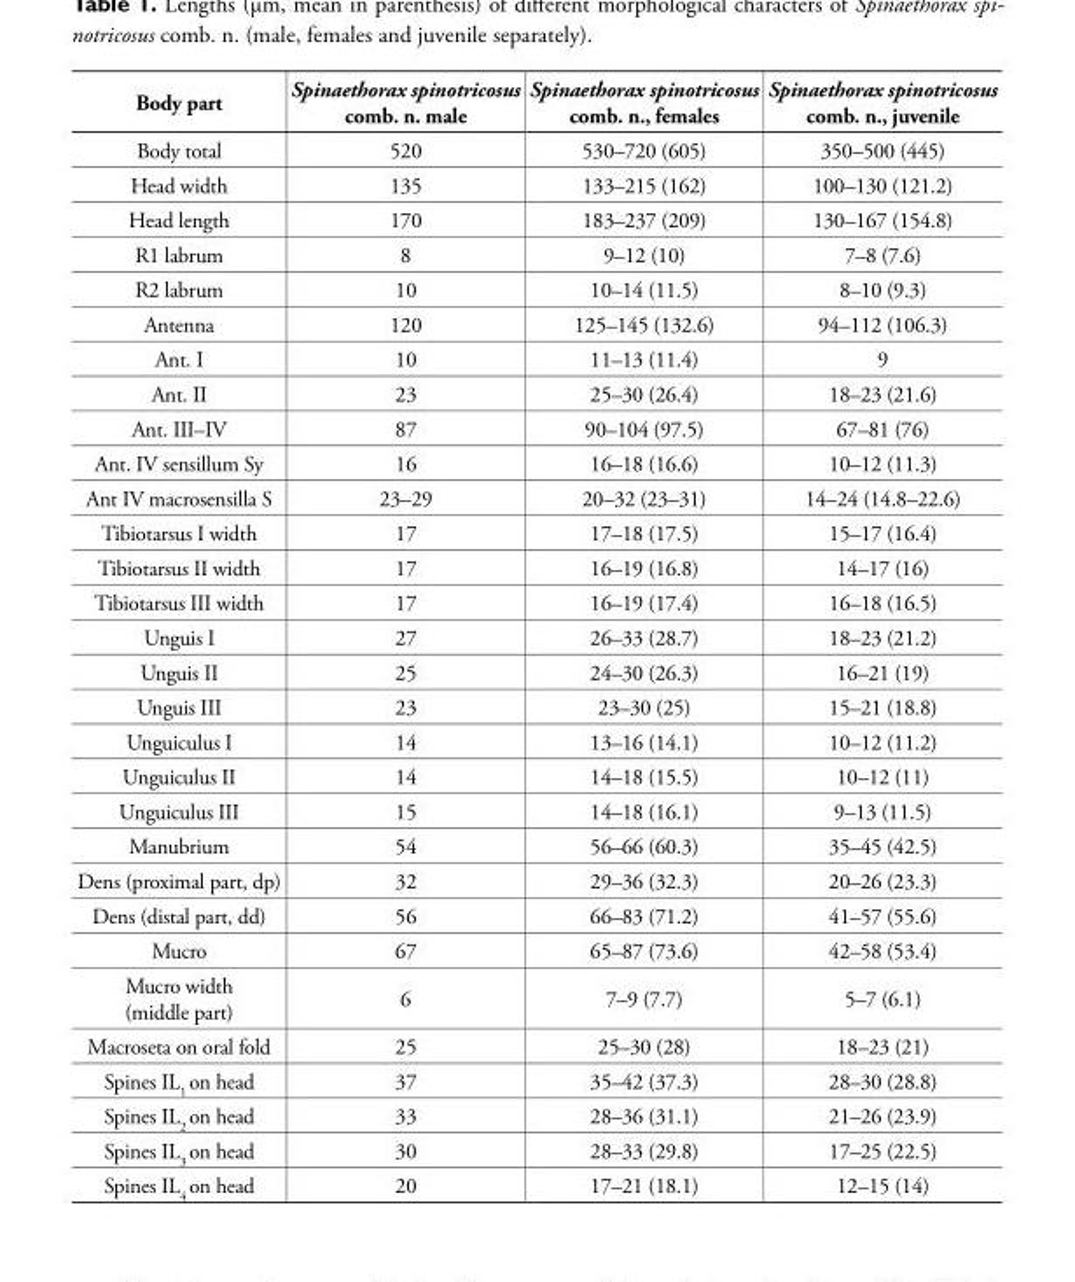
<table><thead><tr><td>Body part</td><td>Spinaethorax spinotricosus comb. n. male</td><td>Spinaethorax spinotricosus comb. n., females</td><td>Spinaethorax spinotricosus comb. n., juvenile</td></tr></thead><tbody><tr><td>Body total</td><td>520</td><td>530–720 (605)</td><td>350–500 (445)</td></tr><tr><td>Head width</td><td>135</td><td>133–215 (162)</td><td>100–130 (121.2)</td></tr><tr><td>Head length</td><td>170</td><td>183–237 (209)</td><td>130–167 (154.8)</td></tr><tr><td>R1 labrum</td><td>8</td><td>9–12 (10)</td><td>7–8 (7.6)</td></tr><tr><td>R2 labrum</td><td>10</td><td>10–14 (11.5)</td><td>8–10 (9.3)</td></tr><tr><td>Antenna</td><td>120</td><td>125–145 (132.6)</td><td>94–112 (106.3)</td></tr><tr><td>Ant. I</td><td>10</td><td>11–13 (11.4)</td><td>9</td></tr><tr><td>Ant. II</td><td>23</td><td>25–30 (26.4)</td><td>18–23 (21.6)</td></tr><tr><td>Ant. III–IV</td><td>87</td><td>90–104 (97.5)</td><td>67–81 (76)</td></tr><tr><td>Ant. IV sensillum Sy</td><td>16</td><td>16–18 (16.6)</td><td>10–12 (11.3)</td></tr><tr><td>Ant IV macrosensilla S</td><td>23–29</td><td>20–32 (23–31)</td><td>14–24 (14.8–22.6)</td></tr><tr><td>Tibiotarsus I width</td><td>17</td><td>17–18 (17.5)</td><td>15–17 (16.4)</td></tr><tr><td>Tibiotarsus II width</td><td>17</td><td>16–19 (16.8)</td><td>14–17 (16)</td></tr><tr><td>Tibiotarsus III width</td><td>17</td><td>16–19 (17.4)</td><td>16–18 (16.5)</td></tr><tr><td>Unguis I</td><td>27</td><td>26–33 (28.7)</td><td>18–23 (21.2)</td></tr><tr><td>Unguis II</td><td>25</td><td>24–30 (26.3)</td><td>16–21 (19)</td></tr><tr><td>Unguis III</td><td>23</td><td>23–30 (25)</td><td>15–21 (18.8)</td></tr><tr><td>Unguiculus I</td><td>14</td><td>13–16 (14.1)</td><td>10–12 (11.2)</td></tr><tr><td>Unguiculus II</td><td>14</td><td>14–18 (15.5)</td><td>10–12 (11)</td></tr><tr><td>Unguiculus III</td><td>15</td><td>14–18 (16.1)</td><td>9–13 (11.5)</td></tr><tr><td>Manubrium</td><td>54</td><td>56–66 (60.3)</td><td>35–45 (42.5)</td></tr><tr><td>Dens (proximal part, dp)</td><td>32</td><td>29–36 (32.3)</td><td>20–26 (23.3)</td></tr><tr><td>Dens (distal part, dd)</td><td>56</td><td>66–83 (71.2)</td><td>41–57 (55.6)</td></tr><tr><td>Mucro</td><td>67</td><td>65–87 (73.6)</td><td>42–58 (53.4)</td></tr><tr><td>Mucro width (middle part)</td><td>6</td><td>7–9 (7.7)</td><td>5–7 (6.1)</td></tr><tr><td>Macroseta on oral fold</td><td>25</td><td>25–30 (28)</td><td>18–23 (21)</td></tr><tr><td>Spines IL<sub>1</sub> on head</td><td>37</td><td>35–42 (37.3)</td><td>28–30 (28.8)</td></tr><tr><td>Spines IL<sub>2</sub> on head</td><td>33</td><td>28–36 (31.1)</td><td>21–26 (23.9)</td></tr><tr><td>Spines IL<sub>3</sub> on head</td><td>30</td><td>28–33 (29.8)</td><td>17–25 (22.5)</td></tr><tr><td>Spines IL<sub>4</sub> on head</td><td>20</td><td>17–21 (18.1)</td><td>12–15 (14)</td></tr></tbody></table>